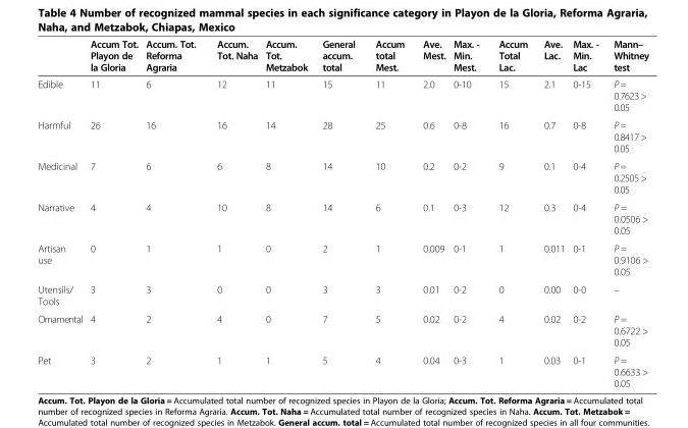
<table><thead><tr><td></td><td>Accum Tot. Playon de la Gloria</td><td>Accum. Tot. Reforma Agraria</td><td>Accum. Tot. Naha</td><td>Accum. Tot. Metzabok</td><td>General accum. total</td><td>Accum total Mest.</td><td>Ave. Mest.</td><td>Max. - Min. Mest.</td><td>Accum Total Lac.</td><td>Ave. Lac.</td><td>Max. - Min. Lac</td><td>Mann– Whitney test</td></tr></thead><tbody><tr><td>Edible</td><td>11</td><td>6</td><td>12</td><td>11</td><td>15</td><td>11</td><td>2.0</td><td>0-10</td><td>15</td><td>2.1</td><td>0-15</td><td>P = 0.7623 &gt; 0.05</td></tr><tr><td>Harmful</td><td>26</td><td>16</td><td>16</td><td>14</td><td>28</td><td>25</td><td>0.6</td><td>0-8</td><td>16</td><td>0.7</td><td>0-8</td><td>P = 0.8417 &gt; 0.05</td></tr><tr><td>Medicinal</td><td>7</td><td>6</td><td>6</td><td>8</td><td>14</td><td>10</td><td>0.2</td><td>0-2</td><td>9</td><td>0.1</td><td>0-4</td><td>P = 0.2505 &gt; 0.05</td></tr><tr><td>Narrative</td><td>4</td><td>4</td><td>10</td><td>8</td><td>14</td><td>6</td><td>0.1</td><td>0-3</td><td>12</td><td>0.3</td><td>0-4</td><td>P = 0.0506 &gt; 0.05</td></tr><tr><td>Artisan use</td><td>0</td><td>1</td><td>1</td><td>0</td><td>2</td><td>1</td><td>0.009</td><td>0-1</td><td>1</td><td>0.011</td><td>0-1</td><td>P = 0.9106 &gt; 0.05</td></tr><tr><td>Utensils/ Tools</td><td>3</td><td>3</td><td>0</td><td>0</td><td>3</td><td>3</td><td>0.01</td><td>0-2</td><td>0</td><td>0.00</td><td>0-0</td><td>–</td></tr><tr><td>Ornamental</td><td>4</td><td>2</td><td>4</td><td>0</td><td>7</td><td>5</td><td>0.02</td><td>0-2</td><td>4</td><td>0.02</td><td>0-2</td><td>P = 0.6722 &gt; 0.05</td></tr><tr><td>Pet</td><td>3</td><td>2</td><td>1</td><td>1</td><td>5</td><td>4</td><td>0.04</td><td>0-3</td><td>1</td><td>0.03</td><td>0-1</td><td>P = 0.6633 &gt; 0.05</td></tr></tbody></table>